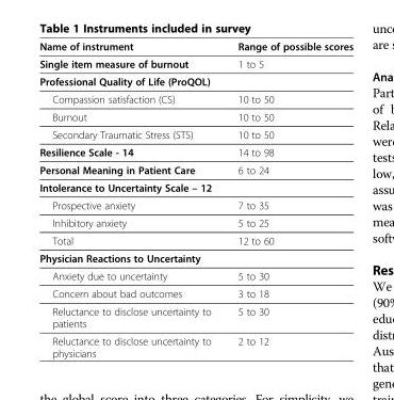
<table><thead><tr><td>Name of instrument</td><td>Range of possible scores</td></tr></thead><tbody><tr><td>Single item measure of burnout</td><td>1 to 5</td></tr><tr><td colspan="2">Professional Quality of Life (ProQOL)</td></tr><tr><td>Compassion satisfaction (CS)</td><td>10 to 50</td></tr><tr><td>Burnout</td><td>10 to 50</td></tr><tr><td>Secondary Traumatic Stress (STS)</td><td>10 to 50</td></tr><tr><td>Resilience Scale - 14</td><td>14 to 98</td></tr><tr><td>Personal Meaning in Patient Care</td><td>6 to 24</td></tr><tr><td colspan="2">Intolerance to Uncertainty Scale – 12</td></tr><tr><td>Prospective anxiety</td><td>7 to 35</td></tr><tr><td>Inhibitory anxiety</td><td>5 to 25</td></tr><tr><td>Total</td><td>12 to 60</td></tr><tr><td colspan="2">Physician Reactions to Uncertainty</td></tr><tr><td>Anxiety due to uncertainty</td><td>5 to 30</td></tr><tr><td>Concern about bad outcomes</td><td>3 to 18</td></tr><tr><td>Reluctance to disclose uncertainty to patients</td><td>5 to 30</td></tr><tr><td>Reluctance to disclose uncertainty to physicians</td><td>2 to 12</td></tr></tbody></table>